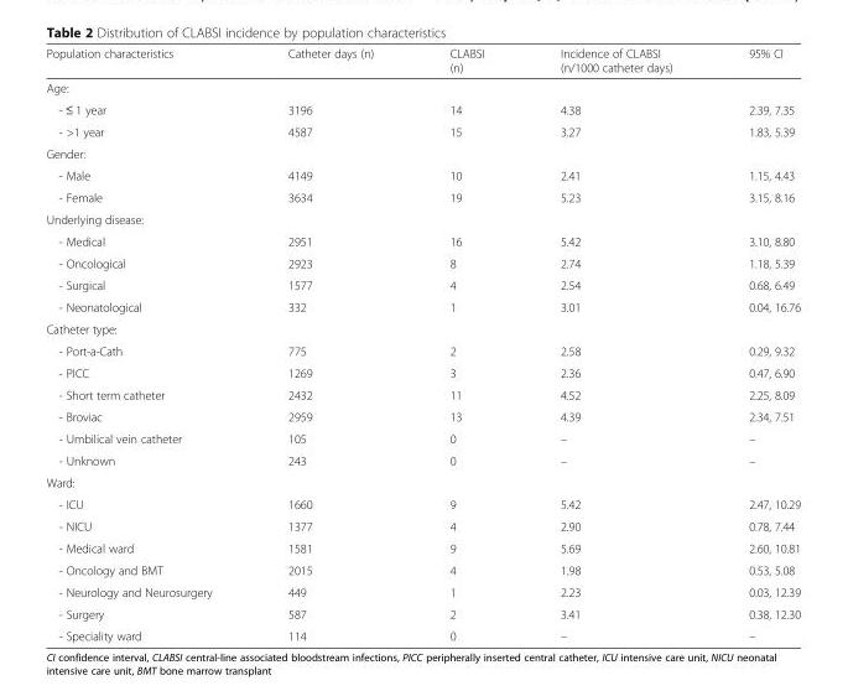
<table><thead><tr><td>Population characteristics</td><td>Catheter days (n)</td><td>CLABSI (n)</td><td>Incidence of CLABSI (n/1000 catheter days)</td><td>95% CI</td></tr></thead><tbody><tr><td colspan="5">Age:</td></tr><tr><td>- ≤ 1 year</td><td>3196</td><td>14</td><td>4.38</td><td>2.39, 7.35</td></tr><tr><td>- &gt;1 year</td><td>4587</td><td>15</td><td>3.27</td><td>1.83, 5.39</td></tr><tr><td colspan="5">Gender:</td></tr><tr><td>- Male</td><td>4149</td><td>10</td><td>2.41</td><td>1.15, 4.43</td></tr><tr><td>- Female</td><td>3634</td><td>19</td><td>5.23</td><td>3.15, 8.16</td></tr><tr><td colspan="5">Underlying disease:</td></tr><tr><td>- Medical</td><td>2951</td><td>16</td><td>5.42</td><td>3.10, 8.80</td></tr><tr><td>- Oncological</td><td>2923</td><td>8</td><td>2.74</td><td>1.18, 5.39</td></tr><tr><td>- Surgical</td><td>1577</td><td>4</td><td>2.54</td><td>0.68, 6.49</td></tr><tr><td>- Neonatological</td><td>332</td><td>1</td><td>3.01</td><td>0.04, 16.76</td></tr><tr><td colspan="5">Catheter type:</td></tr><tr><td>- Port-a-Cath</td><td>775</td><td>2</td><td>2.58</td><td>0.29, 9.32</td></tr><tr><td>- PICC</td><td>1269</td><td>3</td><td>2.36</td><td>0.47, 6.90</td></tr><tr><td>- Short term catheter</td><td>2432</td><td>11</td><td>4.52</td><td>2.25, 8.09</td></tr><tr><td>- Broviac</td><td>2959</td><td>13</td><td>4.39</td><td>2.34, 7.51</td></tr><tr><td>- Umbilical vein catheter</td><td>105</td><td>0</td><td>–</td><td>–</td></tr><tr><td>- Unknown</td><td>243</td><td>0</td><td>–</td><td>–</td></tr><tr><td colspan="5">Ward:</td></tr><tr><td>- ICU</td><td>1660</td><td>9</td><td>5.42</td><td>2.47, 10.29</td></tr><tr><td>- NICU</td><td>1377</td><td>4</td><td>2.90</td><td>0.78, 7.44</td></tr><tr><td>- Medical ward</td><td>1581</td><td>9</td><td>5.69</td><td>2.60, 10.81</td></tr><tr><td>- Oncology and BMT</td><td>2015</td><td>4</td><td>1.98</td><td>0.53, 5.08</td></tr><tr><td>- Neurology and Neurosurgery</td><td>449</td><td>1</td><td>2.23</td><td>0.03, 12.39</td></tr><tr><td>- Surgery</td><td>587</td><td>2</td><td>3.41</td><td>0.38, 12.30</td></tr><tr><td>- Speciality ward</td><td>114</td><td>0</td><td>–</td><td>–</td></tr></tbody></table>